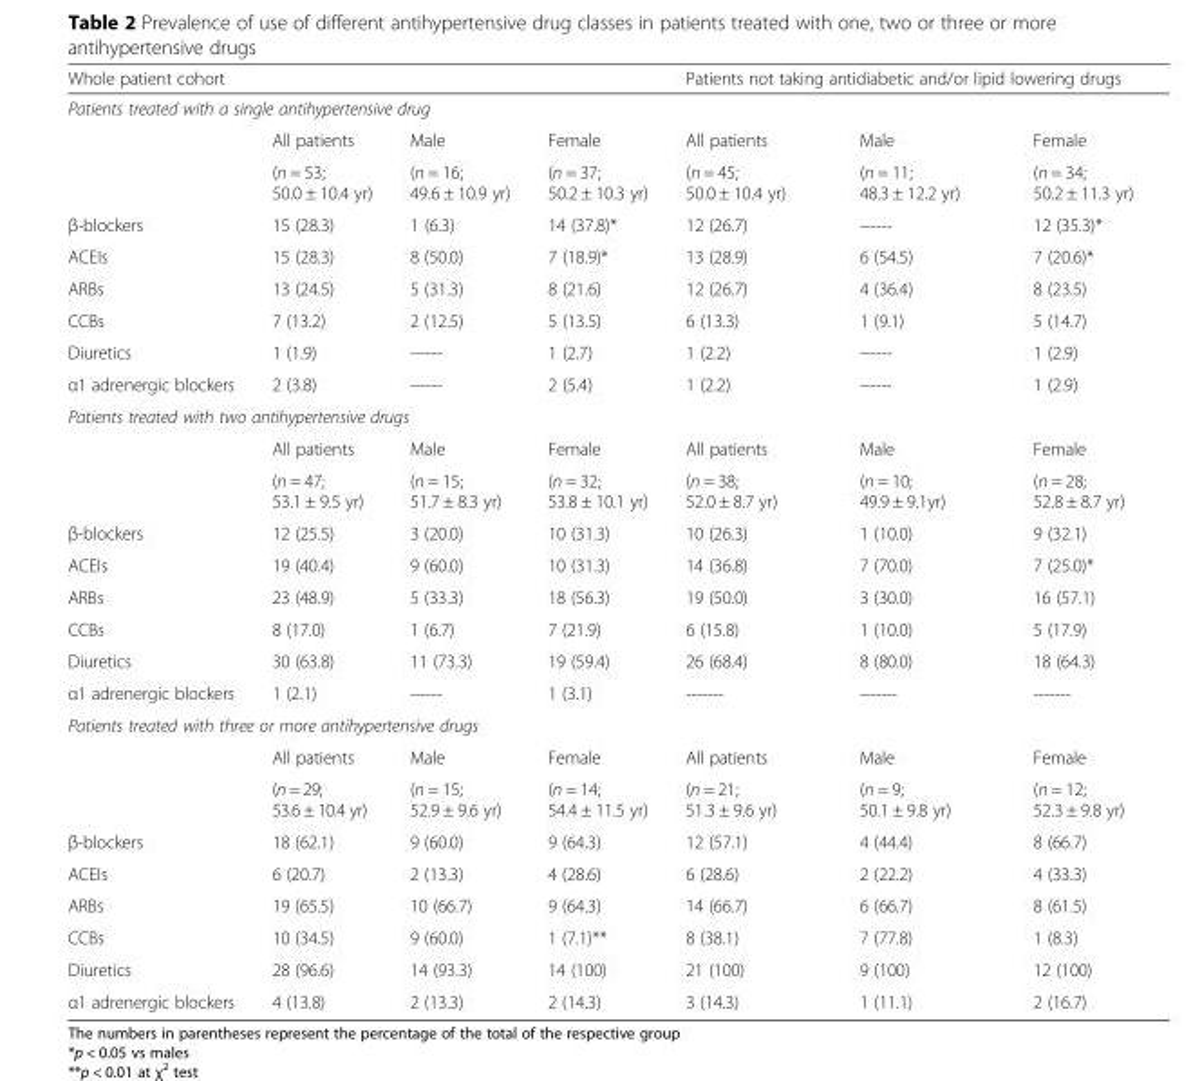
<table><thead><tr><td colspan="4">Whole patient cohort</td><td colspan="3">Patients not taking antidiabetic and/or lipid lowering drugs</td></tr><tr><td colspan="7">Patients treated with a single antihypertensive drug</td></tr><tr><td></td><td>All patients</td><td>Male</td><td>Female</td><td>All patients</td><td>Male</td><td>Female</td></tr></thead><tbody><tr><td></td><td>(n = 53; 50.0 ± 10.4 yr)</td><td>(n = 16; 49.6 ± 10.9 yr)</td><td>(n = 37; 50.2 ± 10.3 yr)</td><td>(n = 45; 50.0 ± 10.4 yr)</td><td>(n = 11; 48.3 ± 12.2 yr)</td><td>(n = 34; 50.2 ± 11.3 yr)</td></tr><tr><td>β-blockers</td><td>15 (28.3)</td><td>1 (6.3)</td><td>14 (37.8)*</td><td>12 (26.7)</td><td>------</td><td>12 (35.3)*</td></tr><tr><td>ACEIs</td><td>15 (28.3)</td><td>8 (50.0)</td><td>7 (18.9)*</td><td>13 (28.9)</td><td>6 (54.5)</td><td>7 (20.6)*</td></tr><tr><td>ARBs</td><td>13 (24.5)</td><td>5 (31.3)</td><td>8 (21.6)</td><td>12 (26.7)</td><td>4 (36.4)</td><td>8 (23.5)</td></tr><tr><td>CCBs</td><td>7 (13.2)</td><td>2 (12.5)</td><td>5 (13.5)</td><td>6 (13.3)</td><td>1 (9.1)</td><td>5 (14.7)</td></tr><tr><td>Diuretics</td><td>1 (1.9)</td><td>------</td><td>1 (2.7)</td><td>1 (2.2)</td><td>------</td><td>1 (2.9)</td></tr><tr><td>α1 adrenergic blockers</td><td>2 (3.8)</td><td>------</td><td>2 (5.4)</td><td>1 (2.2)</td><td>------</td><td>1 (2.9)</td></tr><tr><td colspan="7">Patients treated with two antihypertensive drugs</td></tr><tr><td></td><td>All patients</td><td>Male</td><td>Female</td><td>All patients</td><td>Male</td><td>Female</td></tr><tr><td></td><td>(n = 47; 53.1 ± 9.5 yr)</td><td>(n = 15; 51.7 ± 8.3 yr)</td><td>(n = 32; 53.8 ± 10.1 yr)</td><td>(n = 38; 52.0 ± 8.7 yr)</td><td>(n = 10; 49.9 ± 9.1yr)</td><td>(n = 28; 52.8 ± 8.7 yr)</td></tr><tr><td>β-blockers</td><td>12 (25.5)</td><td>3 (20.0)</td><td>10 (31.3)</td><td>10 (26.3)</td><td>1 (10.0)</td><td>9 (32.1)</td></tr><tr><td>ACEIs</td><td>19 (40.4)</td><td>9 (60.0)</td><td>10 (31.3)</td><td>14 (36.8)</td><td>7 (70.0)</td><td>7 (25.0)*</td></tr><tr><td>ARBs</td><td>23 (48.9)</td><td>5 (33.3)</td><td>18 (56.3)</td><td>19 (50.0)</td><td>3 (30.0)</td><td>16 (57.1)</td></tr><tr><td>CCBs</td><td>8 (17.0)</td><td>1 (6.7)</td><td>7 (21.9)</td><td>6 (15.8)</td><td>1 (10.0)</td><td>5 (17.9)</td></tr><tr><td>Diuretics</td><td>30 (63.8)</td><td>11 (73.3)</td><td>19 (59.4)</td><td>26 (68.4)</td><td>8 (80.0)</td><td>18 (64.3)</td></tr><tr><td>α1 adrenergic blockers</td><td>1 (2.1)</td><td>------</td><td>1 (3.1)</td><td>-------</td><td>-------</td><td>-------</td></tr><tr><td colspan="7">Patients treated with three or more antihypertensive drugs</td></tr><tr><td></td><td>All patients</td><td>Male</td><td>Female</td><td>All patients</td><td>Male</td><td>Female</td></tr><tr><td></td><td>(n = 29; 53.6 ± 10.4 yr)</td><td>(n = 15; 52.9 ± 9.6 yr)</td><td>(n = 14; 54.4 ± 11.5 yr)</td><td>(n = 21; 51.3 ± 9.6 yr)</td><td>(n = 9; 50.1 ± 9.8 yr)</td><td>(n = 12; 52.3 ± 9.8 yr)</td></tr><tr><td>β-blockers</td><td>18 (62.1)</td><td>9 (60.0)</td><td>9 (64.3)</td><td>12 (57.1)</td><td>4 (44.4)</td><td>8 (66.7)</td></tr><tr><td>ACEIs</td><td>6 (20.7)</td><td>2 (13.3)</td><td>4 (28.6)</td><td>6 (28.6)</td><td>2 (22.2)</td><td>4 (33.3)</td></tr><tr><td>ARBs</td><td>19 (65.5)</td><td>10 (66.7)</td><td>9 (64.3)</td><td>14 (66.7)</td><td>6 (66.7)</td><td>8 (61.5)</td></tr><tr><td>CCBs</td><td>10 (34.5)</td><td>9 (60.0)</td><td>1 (7.1)**</td><td>8 (38.1)</td><td>7 (77.8)</td><td>1 (8.3)</td></tr><tr><td>Diuretics</td><td>28 (96.6)</td><td>14 (93.3)</td><td>14 (100)</td><td>21 (100)</td><td>9 (100)</td><td>12 (100)</td></tr><tr><td>α1 adrenergic blockers</td><td>4 (13.8)</td><td>2 (13.3)</td><td>2 (14.3)</td><td>3 (14.3)</td><td>1 (11.1)</td><td>2 (16.7)</td></tr></tbody></table>